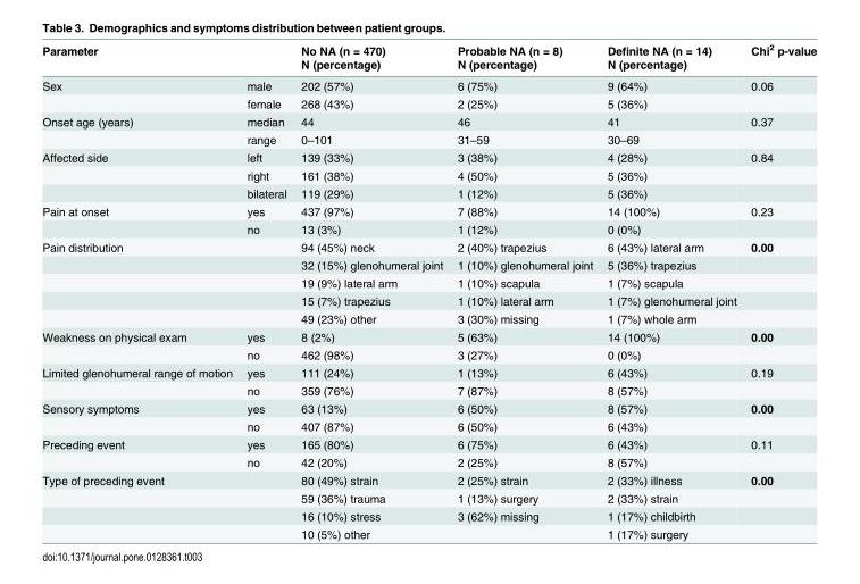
<table><thead><tr><td rowspan="2">Parameter</td><td rowspan="2"></td><td rowspan="2">No NA (n = 470) N (percentage)</td><td rowspan="2">Probable NA (n = 8) N (percentage)</td><td rowspan="2">Definite NA (n = 14) N (percentage)</td><td rowspan="2">Chi<sup>2</sup> p-value</td></tr><tr></tr></thead><tbody><tr><td rowspan="2">Sex</td><td>male</td><td>202 (57%)</td><td>6 (75%)</td><td>9 (64%)</td><td>0.06</td></tr><tr><td>female</td><td>268 (43%)</td><td>2 (25%)</td><td>5 (36%)</td><td></td></tr><tr><td rowspan="2">Onset age (years)</td><td>median</td><td>44</td><td>46</td><td>41</td><td>0.37</td></tr><tr><td>range</td><td>0–101</td><td>31–59</td><td>30–69</td><td></td></tr><tr><td rowspan="3">Affected side</td><td>left</td><td>139 (33%)</td><td>3 (38%)</td><td>4 (28%)</td><td>0.84</td></tr><tr><td>right</td><td>161 (38%)</td><td>4 (50%)</td><td>5 (36%)</td><td></td></tr><tr><td>bilateral</td><td>119 (29%)</td><td>1 (12%)</td><td>5 (36%)</td><td></td></tr><tr><td rowspan="2">Pain at onset</td><td>yes</td><td>437 (97%)</td><td>7 (88%)</td><td>14 (100%)</td><td>0.23</td></tr><tr><td>no</td><td>13 (3%)</td><td>1 (12%)</td><td>0 (0%)</td><td></td></tr><tr><td rowspan="5">Pain distribution</td><td></td><td>94 (45%) neck</td><td>2 (40%) trapezius</td><td>6 (43%) lateral arm</td><td>0.00</td></tr><tr><td></td><td>32 (15%) glenohumeral joint</td><td>1 (10%) glenohumeral joint</td><td>5 (36%) trapezius</td><td></td></tr><tr><td></td><td>19 (9%) lateral arm</td><td>1 (10%) scapula</td><td>1 (7%) scapula</td><td></td></tr><tr><td></td><td>15 (7%) trapezius</td><td>1 (10%) lateral arm</td><td>1 (7%) glenohumeral joint</td><td></td></tr><tr><td></td><td>49 (23%) other</td><td>3 (30%) missing</td><td>1 (7%) whole arm</td><td></td></tr><tr><td rowspan="2">Weakness on physical exam</td><td>yes</td><td>8 (2%)</td><td>5 (63%)</td><td>14 (100%)</td><td>0.00</td></tr><tr><td>no</td><td>462 (98%)</td><td>3 (27%)</td><td>0 (0%)</td><td></td></tr><tr><td rowspan="2">Limited glenohumeral range of motion</td><td>yes</td><td>111 (24%)</td><td>1 (13%)</td><td>6 (43%)</td><td>0.19</td></tr><tr><td>no</td><td>359 (76%)</td><td>7 (87%)</td><td>8 (57%)</td><td></td></tr><tr><td rowspan="2">Sensory symptoms</td><td>yes</td><td>63 (13%)</td><td>6 (50%)</td><td>8 (57%)</td><td>0.00</td></tr><tr><td>no</td><td>407 (87%)</td><td>6 (50%)</td><td>6 (43%)</td><td></td></tr><tr><td rowspan="2">Preceding event</td><td>yes</td><td>165 (80%)</td><td>6 (75%)</td><td>6 (43%)</td><td>0.11</td></tr><tr><td>no</td><td>42 (20%)</td><td>2 (25%)</td><td>8 (57%)</td><td></td></tr><tr><td rowspan="4">Type of preceding event</td><td></td><td>80 (49%) strain</td><td>2 (25%) strain</td><td>2 (33%) illness</td><td>0.00</td></tr><tr><td></td><td>59 (36%) trauma</td><td>1 (13%) surgery</td><td>2 (33%) strain</td><td></td></tr><tr><td></td><td>16 (10%) stress</td><td>3 (62%) missing</td><td>1 (17%) childbirth</td><td></td></tr><tr><td></td><td>10 (5%) other</td><td></td><td>1 (17%) surgery</td><td></td></tr></tbody></table>